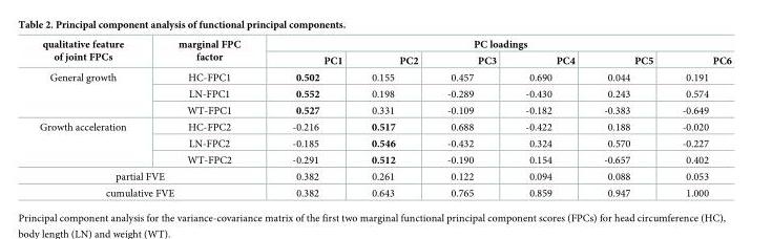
<table><thead><tr><td rowspan="2">qualitative feature of joint FPCs</td><td rowspan="2">marginal FPC factor</td><td colspan="6">PC loadings</td></tr><tr><td>PC1</td><td>PC2</td><td>PC3</td><td>PC4</td><td>PC5</td><td>PC6</td></tr></thead><tbody><tr><td rowspan="3">General growth</td><td>HC-FPC1</td><td>0.502</td><td>0.155</td><td>0.457</td><td>0.690</td><td>0.044</td><td>0.191</td></tr><tr><td>LN-FPC1</td><td>0.552</td><td>0.198</td><td>-0.289</td><td>-0.430</td><td>0.243</td><td>0.574</td></tr><tr><td>WT-FPC1</td><td>0.527</td><td>0.331</td><td>-0.109</td><td>-0.182</td><td>-0.383</td><td>-0.649</td></tr><tr><td rowspan="3">Growth acceleration</td><td>HC-FPC2</td><td>-0.216</td><td>0.517</td><td>0.688</td><td>-0.422</td><td>0.188</td><td>-0.020</td></tr><tr><td>LN-FPC2</td><td>-0.185</td><td>0.546</td><td>-0.432</td><td>0.324</td><td>0.570</td><td>-0.227</td></tr><tr><td>WT-FPC2</td><td>-0.291</td><td>0.512</td><td>-0.190</td><td>0.154</td><td>-0.657</td><td>0.402</td></tr><tr><td colspan="2">partial FVE</td><td>0.382</td><td>0.261</td><td>0.122</td><td>0.094</td><td>0.088</td><td>0.053</td></tr><tr><td colspan="2">cumulative FVE</td><td>0.382</td><td>0.643</td><td>0.765</td><td>0.859</td><td>0.947</td><td>1.000</td></tr></tbody></table>